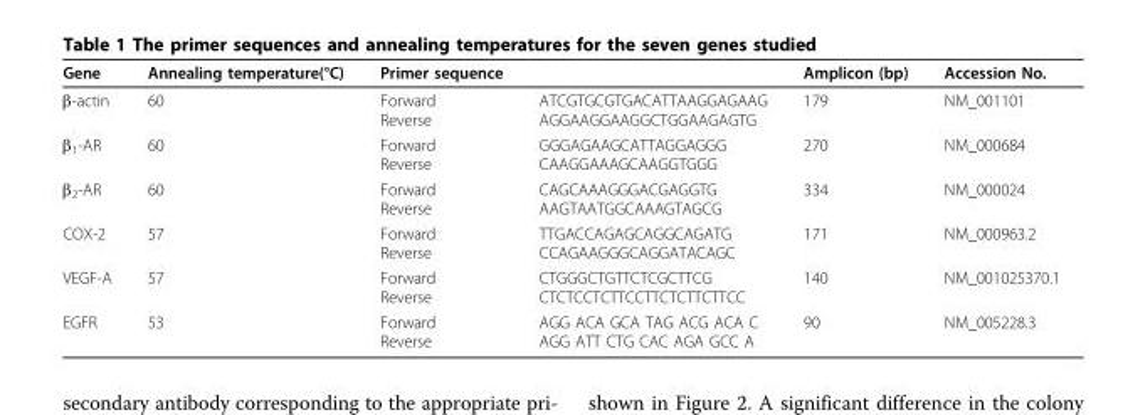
<table><thead><tr><td>Gene</td><td>Annealing temperature(°C)</td><td>Primer sequence</td><td></td><td>Amplicon (bp)</td><td>Accession No.</td></tr></thead><tbody><tr><td>β-actin</td><td>60</td><td>Forward Reverse</td><td>ATCGTGCGTGACATTAAGGAGAAG AGGAAGGAAGGCTGGAAGAGTG</td><td>179</td><td>NM_001101</td></tr><tr><td>β<sub>1</sub>-AR</td><td>60</td><td>Forward Reverse</td><td>GGGAGAAGCATTAGGAGGG CAAGGAAAGCAAGGTGGG</td><td>270</td><td>NM_000684</td></tr><tr><td>β<sub>2</sub>-AR</td><td>60</td><td>Forward Reverse</td><td>CAGCAAAGGGACGAGGTG AAGTAATGGCAAAGTAGCG</td><td>334</td><td>NM_000024</td></tr><tr><td>COX-2</td><td>57</td><td>Forward Reverse</td><td>TTGACCAGAGCAGGCAGATG CCAGAAGGGCAGGATACAGC</td><td>171</td><td>NM_000963.2</td></tr><tr><td>VEGF-A</td><td>57</td><td>Forward Reverse</td><td>CTGGGCTGTTCTCGCTTCG CTCTCCTCTTCCTTCTCTTCTTCC</td><td>140</td><td>NM_001025370.1</td></tr><tr><td>EGFR</td><td>53</td><td>Forward Reverse</td><td>AGG ACA GCA TAG ACG ACA C AGG ATT CTG CAC AGA GCC A</td><td>90</td><td>NM_005228.3</td></tr></tbody></table>